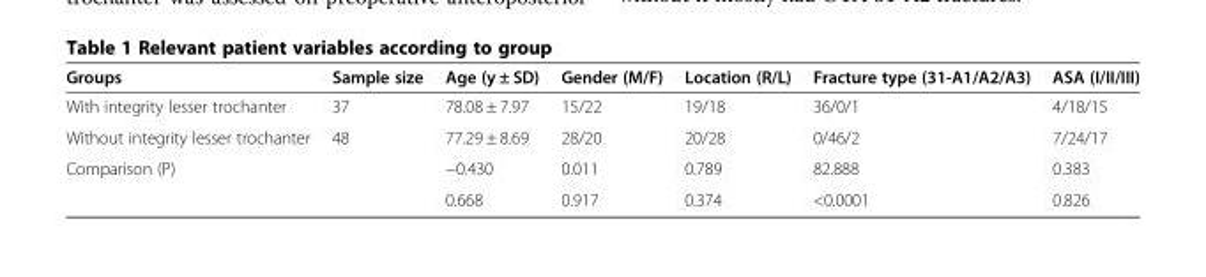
<table><thead><tr><td>Groups</td><td>Sample size</td><td>Age (y ± SD)</td><td>Gender (M/F)</td><td>Location (R/L)</td><td>Fracture type (31-A1/A2/A3)</td><td>ASA (I/II/III)</td></tr></thead><tbody><tr><td>With integrity lesser trochanter</td><td>37</td><td>78.08 ± 7.97</td><td>15/22</td><td>19/18</td><td>36/0/1</td><td>4/18/15</td></tr><tr><td>Without integrity lesser trochanter</td><td>48</td><td>77.29 ± 8.69</td><td>28/20</td><td>20/28</td><td>0/46/2</td><td>7/24/17</td></tr><tr><td rowspan="2">Comparison (P)</td><td rowspan="2"></td><td>−0.430</td><td>0.011</td><td>0.789</td><td>82.888</td><td>0.383</td></tr><tr><td>0.668</td><td>0.917</td><td>0.374</td><td>&lt;0.0001</td><td>0.826</td></tr></tbody></table>